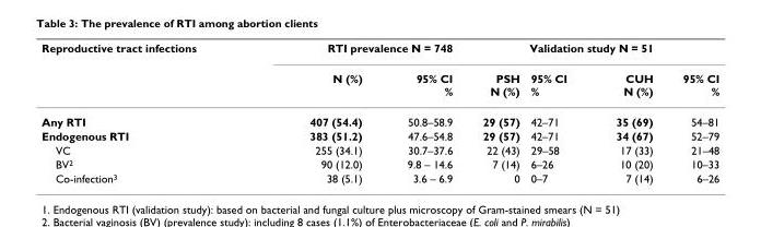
<table><thead><tr><td rowspan="2">Reproductive tract infections</td><td colspan="2">RTI prevalence N = 748</td><td colspan="4">Validation study N = 51</td></tr><tr><td>N (%)</td><td>95% CI %</td><td>PSH N (%)</td><td>95% CI %</td><td>CUH N (%)</td><td>95% CI %</td></tr></thead><tbody><tr><td>Any RTI</td><td>407 (54.4)</td><td>50.8–58.9</td><td>29 (57)</td><td>42–71</td><td>35 (69)</td><td>54–81</td></tr><tr><td>Endogenous RTI</td><td>383 (51.2)</td><td>47.6–54.8</td><td>29 (57)</td><td>42–71</td><td>34 (67)</td><td>52–79</td></tr><tr><td>VC</td><td>255 (34.1)</td><td>30.7–37.6</td><td>22 (43)</td><td>29–58</td><td>17 (33)</td><td>21–48</td></tr><tr><td>BV<sup>2</sup></td><td>90 (12.0)</td><td>9.8 – 14.6</td><td>7 (14)</td><td>6–26</td><td>10 (20)</td><td>10–33</td></tr><tr><td>Co-infection<sup>3</sup></td><td>38 (5.1)</td><td>3.6 – 6.9</td><td>0</td><td>0–7</td><td>7 (14)</td><td>6–26</td></tr></tbody></table>